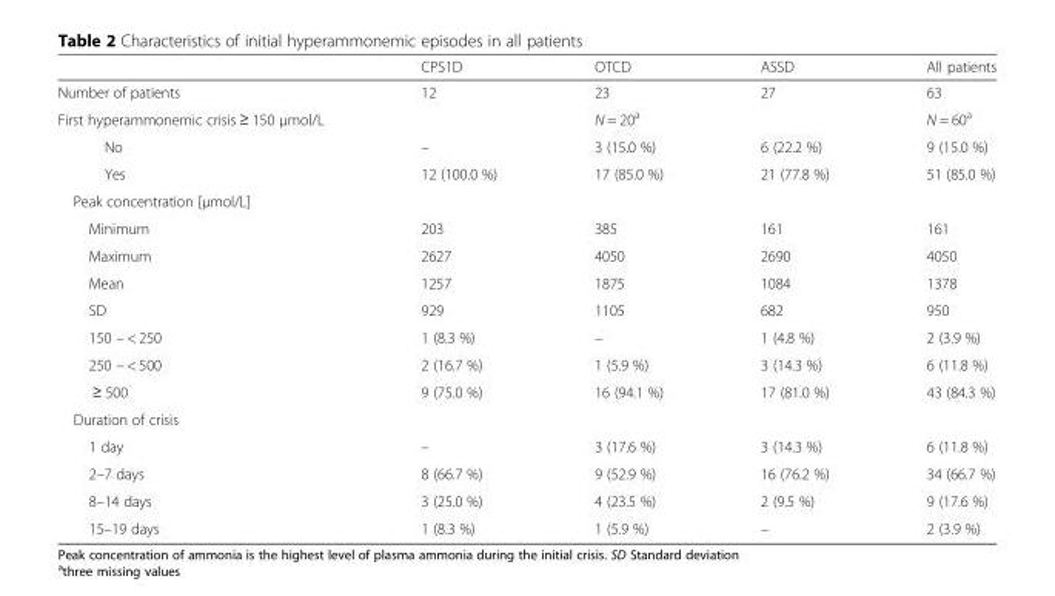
<table><thead><tr><td></td><td>CPS1D</td><td>OTCD</td><td>ASSD</td><td>All patients</td></tr></thead><tbody><tr><td>Number of patients</td><td>12</td><td>23</td><td>27</td><td>63</td></tr><tr><td>First hyperammonemic crisis ≥ 150 μmol/L</td><td></td><td>N = 20<sup>a</sup></td><td></td><td>N = 60<sup>a</sup></td></tr><tr><td>No</td><td>–</td><td>3 (15.0 %)</td><td>6 (22.2 %)</td><td>9 (15.0 %)</td></tr><tr><td>Yes</td><td>12 (100.0 %)</td><td>17 (85.0 %)</td><td>21 (77.8 %)</td><td>51 (85.0 %)</td></tr><tr><td colspan="5">Peak concentration [μmol/L]</td></tr><tr><td>Minimum</td><td>203</td><td>385</td><td>161</td><td>161</td></tr><tr><td>Maximum</td><td>2627</td><td>4050</td><td>2690</td><td>4050</td></tr><tr><td>Mean</td><td>1257</td><td>1875</td><td>1084</td><td>1378</td></tr><tr><td>SD</td><td>929</td><td>1105</td><td>682</td><td>950</td></tr><tr><td>150 – &lt; 250</td><td>1 (8.3 %)</td><td>–</td><td>1 (4.8 %)</td><td>2 (3.9 %)</td></tr><tr><td>250 – &lt; 500</td><td>2 (16.7 %)</td><td>1 (5.9 %)</td><td>3 (14.3 %)</td><td>6 (11.8 %)</td></tr><tr><td>≥ 500</td><td>9 (75.0 %)</td><td>16 (94.1 %)</td><td>17 (81.0 %)</td><td>43 (84.3 %)</td></tr><tr><td colspan="5">Duration of crisis</td></tr><tr><td>1 day</td><td>–</td><td>3 (17.6 %)</td><td>3 (14.3 %)</td><td>6 (11.8 %)</td></tr><tr><td>2–7 days</td><td>8 (66.7 %)</td><td>9 (52.9 %)</td><td>16 (76.2 %)</td><td>34 (66.7 %)</td></tr><tr><td>8–14 days</td><td>3 (25.0 %)</td><td>4 (23.5 %)</td><td>2 (9.5 %)</td><td>9 (17.6 %)</td></tr><tr><td>15–19 days</td><td>1 (8.3 %)</td><td>1 (5.9 %)</td><td>–</td><td>2 (3.9 %)</td></tr></tbody></table>